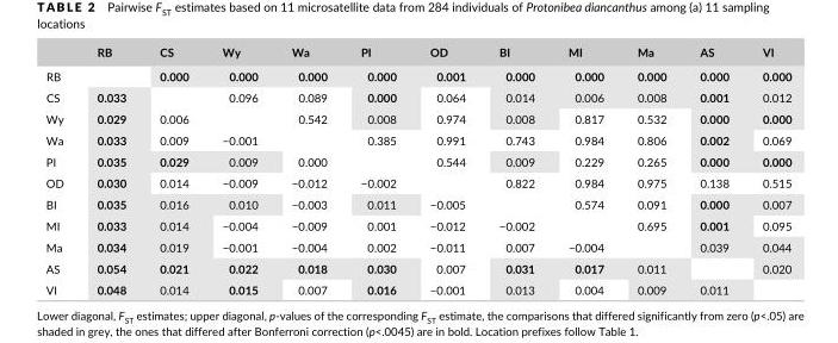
<table><thead><tr><td></td><td>RB</td><td>CS</td><td>Wy</td><td>Wa</td><td>PI</td><td>OD</td><td>BI</td><td>MI</td><td>Ma</td><td>AS</td><td>VI</td></tr></thead><tbody><tr><td>RB</td><td></td><td>0.000</td><td>0.000</td><td>0.000</td><td>0.000</td><td>0.001</td><td>0.000</td><td>0.000</td><td>0.000</td><td>0.000</td><td>0.000</td></tr><tr><td>CS</td><td>0.033</td><td></td><td>0.096</td><td>0.089</td><td>0.000</td><td>0.064</td><td>0.014</td><td>0.006</td><td>0.008</td><td>0.001</td><td>0.012</td></tr><tr><td>Wy</td><td>0.029</td><td>0.006</td><td></td><td>0.542</td><td>0.008</td><td>0.974</td><td>0.008</td><td>0.817</td><td>0.532</td><td>0.000</td><td>0.000</td></tr><tr><td>Wa</td><td>0.033</td><td>0.009</td><td>−0.001</td><td></td><td>0.385</td><td>0.991</td><td>0.743</td><td>0.984</td><td>0.806</td><td>0.002</td><td>0.069</td></tr><tr><td>PI</td><td>0.035</td><td>0.029</td><td>0.009</td><td>0.000</td><td></td><td>0.544</td><td>0.009</td><td>0.229</td><td>0.265</td><td>0.000</td><td>0.000</td></tr><tr><td>OD</td><td>0.030</td><td>0.014</td><td>−0.009</td><td>−0.012</td><td>−0.002</td><td></td><td>0.822</td><td>0.984</td><td>0.975</td><td>0.138</td><td>0.515</td></tr><tr><td>BI</td><td>0.035</td><td>0.016</td><td>0.010</td><td>−0.003</td><td>0.011</td><td>−0.005</td><td></td><td>0.574</td><td>0.091</td><td>0.000</td><td>0.007</td></tr><tr><td>MI</td><td>0.033</td><td>0.014</td><td>−0.004</td><td>−0.009</td><td>0.001</td><td>−0.012</td><td>−0.002</td><td></td><td>0.695</td><td>0.001</td><td>0.095</td></tr><tr><td>Ma</td><td>0.034</td><td>0.019</td><td>−0.001</td><td>−0.004</td><td>0.002</td><td>−0.011</td><td>0.007</td><td>−0.004</td><td></td><td>0.039</td><td>0.044</td></tr><tr><td>AS</td><td>0.054</td><td>0.021</td><td>0.022</td><td>0.018</td><td>0.030</td><td>0.007</td><td>0.031</td><td>0.017</td><td>0.011</td><td></td><td>0.020</td></tr><tr><td>VI</td><td>0.048</td><td>0.014</td><td>0.015</td><td>0.007</td><td>0.016</td><td>−0.001</td><td>0.013</td><td>0.004</td><td>0.009</td><td>0.011</td><td></td></tr></tbody></table>